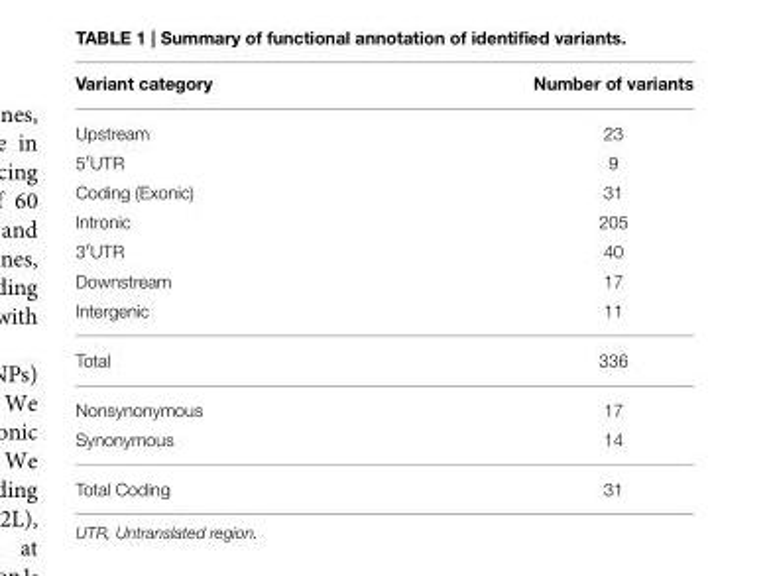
<table><thead><tr><td>Variant category</td><td>Number of variants</td></tr></thead><tbody><tr><td>Upstream</td><td>23</td></tr><tr><td>5′UTR</td><td>9</td></tr><tr><td>Coding (Exonic)</td><td>31</td></tr><tr><td>Intronic</td><td>205</td></tr><tr><td>3′UTR</td><td>40</td></tr><tr><td>Downstream</td><td>17</td></tr><tr><td>Intergenic</td><td>11</td></tr><tr><td>Total</td><td>336</td></tr><tr><td>Nonsynonymous</td><td>17</td></tr><tr><td>Synonymous</td><td>14</td></tr><tr><td>Total Coding</td><td>31</td></tr></tbody></table>